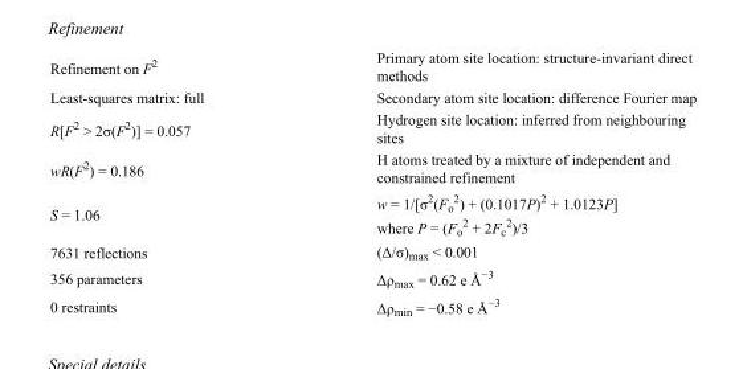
<table><tbody><tr><td>Refinement on F<sup>2</sup></td><td>Primary atom site location: structure-invariant direct methods</td></tr><tr><td>Least-squares matrix: full</td><td>Secondary atom site location: difference Fourier map</td></tr><tr><td>R[F<sup>2</sup> &gt; 2σ(F<sup>2</sup>)] = 0.057</td><td>Hydrogen site location: inferred from neighbouring sites</td></tr><tr><td>wR(F<sup>2</sup>) = 0.186</td><td>H atoms treated by a mixture of independent and constrained refinement</td></tr><tr><td>S = 1.06</td><td>w = 1/[σ<sup>2</sup>(F<sub>o</sub> <sup>2</sup>) + (0.1017P)<sup>2</sup> + 1.0123P] where P = (F<sub>o</sub> <sup>2</sup> + 2F<sub>c</sub> <sup>2</sup>)/3</td></tr><tr><td>7631 reflections</td><td>(Δ/σ)<sub>max</sub> &lt; 0.001</td></tr><tr><td>356 parameters</td><td>Δρ<sub>max</sub> = 0.62 e Å<sup>−3</sup></td></tr><tr><td>0 restraints</td><td>Δρ<sub>min</sub> = −0.58 e Å<sup>−3</sup></td></tr></tbody></table>